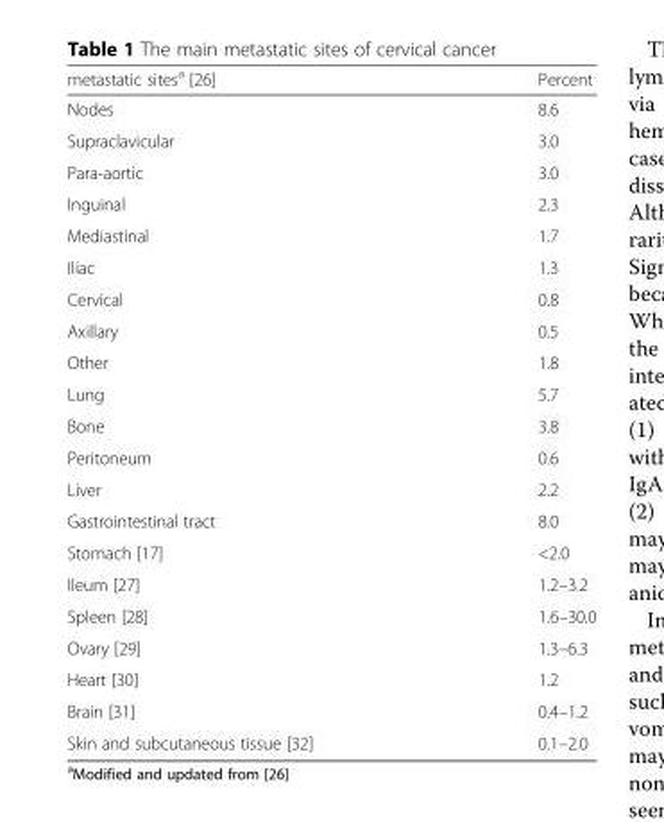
<table><thead><tr><td>metastatic sites<sup>a</sup> [26]</td><td>Percent</td></tr></thead><tbody><tr><td>Nodes</td><td>8.6</td></tr><tr><td>Supraclavicular</td><td>3.0</td></tr><tr><td>Para-aortic</td><td>3.0</td></tr><tr><td>Inguinal</td><td>2.3</td></tr><tr><td>Mediastinal</td><td>1.7</td></tr><tr><td>Iliac</td><td>1.3</td></tr><tr><td>Cervical</td><td>0.8</td></tr><tr><td>Axillary</td><td>0.5</td></tr><tr><td>Other</td><td>1.8</td></tr><tr><td>Lung</td><td>5.7</td></tr><tr><td>Bone</td><td>3.8</td></tr><tr><td>Peritoneum</td><td>0.6</td></tr><tr><td>Liver</td><td>2.2</td></tr><tr><td>Gastrointestinal tract</td><td>8.0</td></tr><tr><td>Stomach [17]</td><td>&lt;2.0</td></tr><tr><td>Ileum [27]</td><td>1.2–3.2</td></tr><tr><td>Spleen [28]</td><td>1.6–30.0</td></tr><tr><td>Ovary [29]</td><td>1.3–6.3</td></tr><tr><td>Heart [30]</td><td>1.2</td></tr><tr><td>Brain [31]</td><td>0.4–1.2</td></tr><tr><td>Skin and subcutaneous tissue [32]</td><td>0.1–2.0</td></tr></tbody></table>